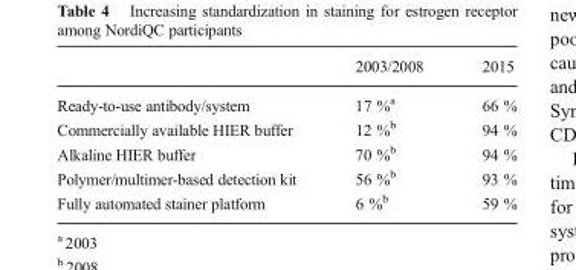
<table><thead><tr><td></td><td>2003/2008</td><td>2015</td></tr></thead><tbody><tr><td>Ready-to-use antibody/system</td><td>17 %<sup>a</sup></td><td>66 %</td></tr><tr><td>Commercially available HIER buffer</td><td>12 %<sup>b</sup></td><td>94 %</td></tr><tr><td>Alkaline HIER buffer</td><td>70 %<sup>b</sup></td><td>94 %</td></tr><tr><td>Polymer/multimer-based detection kit</td><td>56 %<sup>b</sup></td><td>93 %</td></tr><tr><td>Fully automated stainer platform</td><td>6 %<sup>b</sup></td><td>59 %</td></tr></tbody></table>